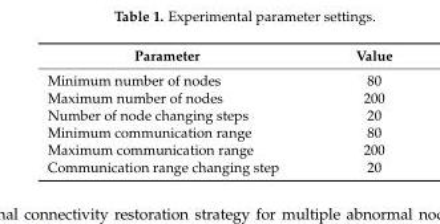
<table><thead><tr><td>Parameter</td><td>Value</td></tr></thead><tbody><tr><td>Minimum number of nodes</td><td>80</td></tr><tr><td>Maximum number of nodes</td><td>200</td></tr><tr><td>Number of node changing steps</td><td>20</td></tr><tr><td>Minimum communication range</td><td>80</td></tr><tr><td>Maximum communication range</td><td>200</td></tr><tr><td>Communication range changing step</td><td>20</td></tr></tbody></table>